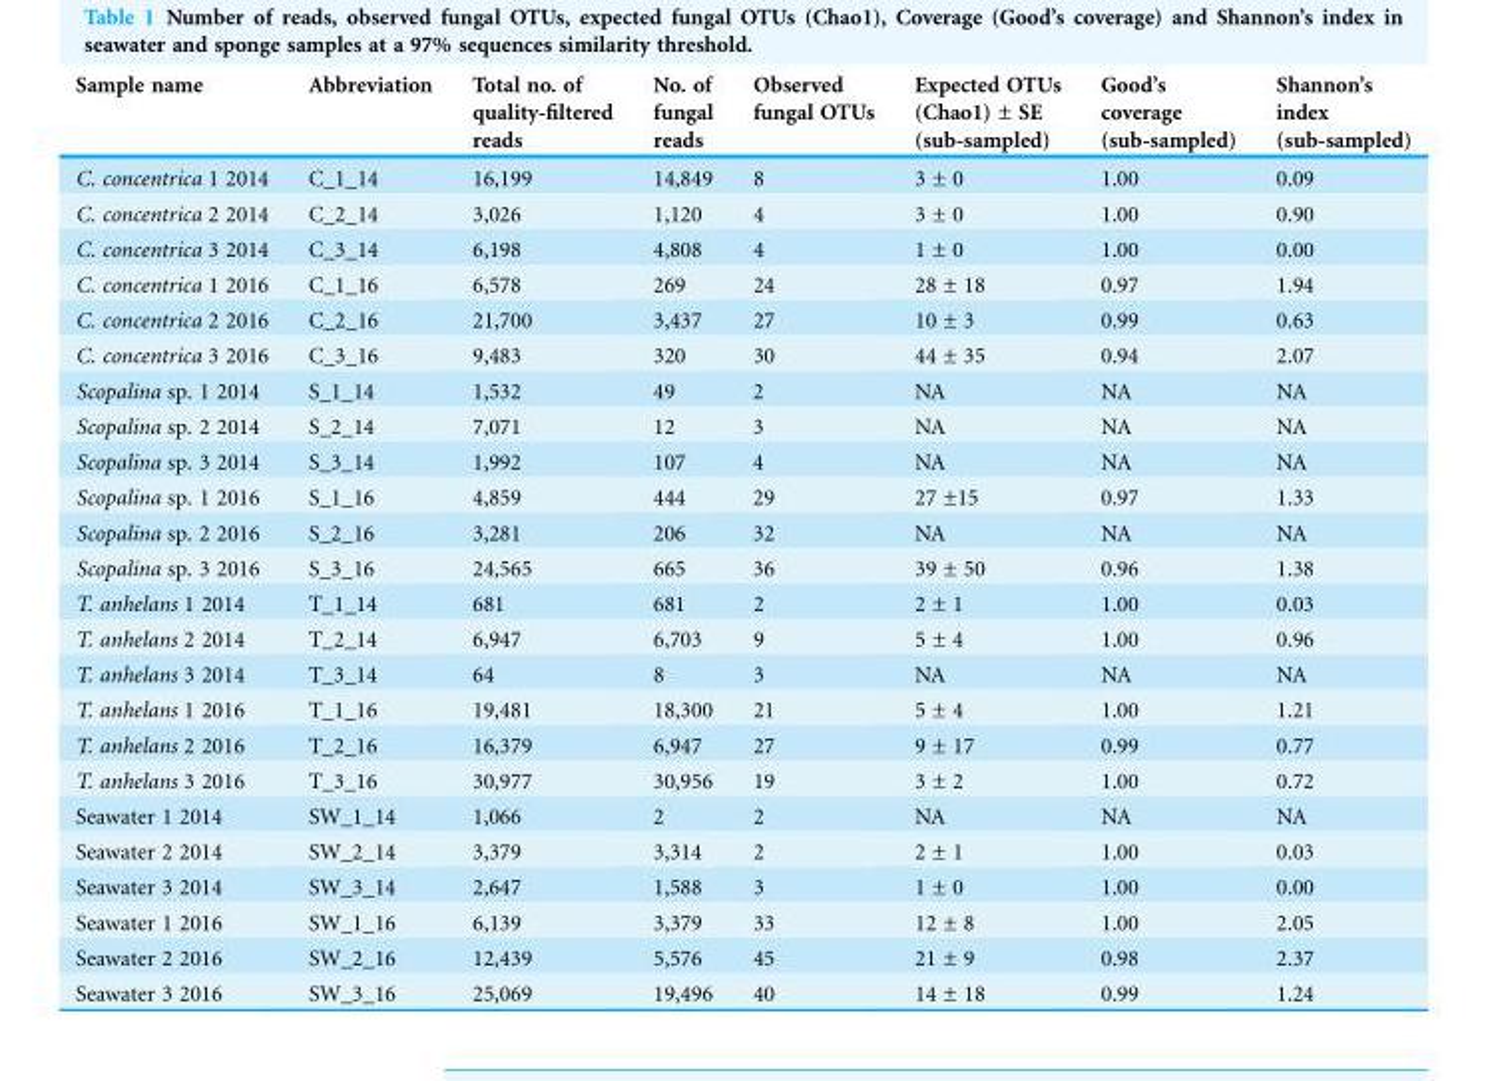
<table><thead><tr><td>Sample name</td><td>Abbreviation</td><td>Total no. of quality-filtered reads</td><td>No. of fungal reads</td><td>Observed fungal OTUs</td><td>Expected OTUs (Chao1) ± SE (sub-sampled)</td><td>Good’s coverage (sub-sampled)</td><td>Shannon’s index (sub-sampled)</td></tr></thead><tbody><tr><td>C. concentrica 1 2014</td><td>C_1_14</td><td>16,199</td><td>14,849</td><td>8</td><td>3 ± 0</td><td>1.00</td><td>0.09</td></tr><tr><td>C. concentrica 2 2014</td><td>C_2_14</td><td>3,026</td><td>1,120</td><td>4</td><td>3 ± 0</td><td>1.00</td><td>0.90</td></tr><tr><td>C. concentrica 3 2014</td><td>C_3_14</td><td>6,198</td><td>4,808</td><td>4</td><td>1 ± 0</td><td>1.00</td><td>0.00</td></tr><tr><td>C. concentrica 1 2016</td><td>C_1_16</td><td>6,578</td><td>269</td><td>24</td><td>28 ± 18</td><td>0.97</td><td>1.94</td></tr><tr><td>C. concentrica 2 2016</td><td>C_2_16</td><td>21,700</td><td>3,437</td><td>27</td><td>10 ± 3</td><td>0.99</td><td>0.63</td></tr><tr><td>C. concentrica 3 2016</td><td>C_3_16</td><td>9,483</td><td>320</td><td>30</td><td>44 ± 35</td><td>0.94</td><td>2.07</td></tr><tr><td>Scopalina sp. 1 2014</td><td>S_1_14</td><td>1,532</td><td>49</td><td>2</td><td>NA</td><td>NA</td><td>NA</td></tr><tr><td>Scopalina sp. 2 2014</td><td>S_2_14</td><td>7,071</td><td>12</td><td>3</td><td>NA</td><td>NA</td><td>NA</td></tr><tr><td>Scopalina sp. 3 2014</td><td>S_3_14</td><td>1,992</td><td>107</td><td>4</td><td>NA</td><td>NA</td><td>NA</td></tr><tr><td>Scopalina sp. 1 2016</td><td>S_1_16</td><td>4,859</td><td>444</td><td>29</td><td>27 ±15</td><td>0.97</td><td>1.33</td></tr><tr><td>Scopalina sp. 2 2016</td><td>S_2_16</td><td>3,281</td><td>206</td><td>32</td><td>NA</td><td>NA</td><td>NA</td></tr><tr><td>Scopalina sp. 3 2016</td><td>S_3_16</td><td>24,565</td><td>665</td><td>36</td><td>39 ± 50</td><td>0.96</td><td>1.38</td></tr><tr><td>T. anhelans 1 2014</td><td>T_1_14</td><td>681</td><td>681</td><td>2</td><td>2 ± 1</td><td>1.00</td><td>0.03</td></tr><tr><td>T. anhelans 2 2014</td><td>T_2_14</td><td>6,947</td><td>6,703</td><td>9</td><td>5 ± 4</td><td>1.00</td><td>0.96</td></tr><tr><td>T. anhelans 3 2014</td><td>T_3_14</td><td>64</td><td>8</td><td>3</td><td>NA</td><td>NA</td><td>NA</td></tr><tr><td>T. anhelans 1 2016</td><td>T_1_16</td><td>19,481</td><td>18,300</td><td>21</td><td>5 ± 4</td><td>1.00</td><td>1.21</td></tr><tr><td>T. anhelans 2 2016</td><td>T_2_16</td><td>16,379</td><td>6,947</td><td>27</td><td>9 ± 17</td><td>0.99</td><td>0.77</td></tr><tr><td>T. anhelans 3 2016</td><td>T_3_16</td><td>30,977</td><td>30,956</td><td>19</td><td>3 ± 2</td><td>1.00</td><td>0.72</td></tr><tr><td>Seawater 1 2014</td><td>SW_1_14</td><td>1,066</td><td>2</td><td>2</td><td>NA</td><td>NA</td><td>NA</td></tr><tr><td>Seawater 2 2014</td><td>SW_2_14</td><td>3,379</td><td>3,314</td><td>2</td><td>2 ± 1</td><td>1.00</td><td>0.03</td></tr><tr><td>Seawater 3 2014</td><td>SW_3_14</td><td>2,647</td><td>1,588</td><td>3</td><td>1 ± 0</td><td>1.00</td><td>0.00</td></tr><tr><td>Seawater 1 2016</td><td>SW_1_16</td><td>6,139</td><td>3,379</td><td>33</td><td>12 ± 8</td><td>1.00</td><td>2.05</td></tr><tr><td>Seawater 2 2016</td><td>SW_2_16</td><td>12,439</td><td>5,576</td><td>45</td><td>21 ± 9</td><td>0.98</td><td>2.37</td></tr><tr><td>Seawater 3 2016</td><td>SW_3_16</td><td>25,069</td><td>19,496</td><td>40</td><td>14 ± 18</td><td>0.99</td><td>1.24</td></tr></tbody></table>